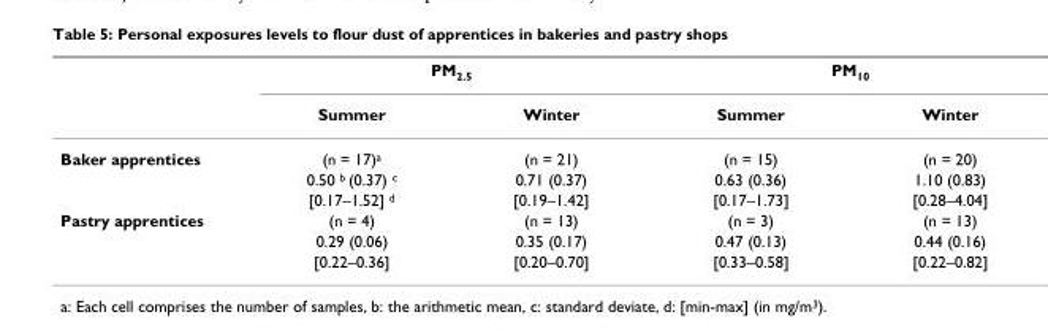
<table><thead><tr><td rowspan="2"></td><td colspan="2">PM<sub>2.5</sub></td><td colspan="2">PM<sub>10</sub></td></tr><tr><td>Summer</td><td>Winter</td><td>Summer</td><td>Winter</td></tr></thead><tbody><tr><td rowspan="3">Baker apprentices</td><td>(n = 17)<sup>a</sup></td><td>(n = 21)</td><td>(n = 15)</td><td>(n = 20)</td></tr><tr><td>0.50 <sup>b</sup> (0.37) <sup>c</sup></td><td>0.71 (0.37)</td><td>0.63 (0.36)</td><td>1.10 (0.83)</td></tr><tr><td>[0.17–1.52] <sup>d</sup></td><td>[0.19–1.42]</td><td>[0.17–1.73]</td><td>[0.28–4.04]</td></tr><tr><td rowspan="3">Pastry apprentices</td><td>(n = 4)</td><td>(n = 13)</td><td>(n = 3)</td><td>(n = 13)</td></tr><tr><td>0.29 (0.06)</td><td>0.35 (0.17)</td><td>0.47 (0.13)</td><td>0.44 (0.16)</td></tr><tr><td>[0.22–0.36]</td><td>[0.20–0.70]</td><td>[0.33–0.58]</td><td>[0.22–0.82]</td></tr></tbody></table>